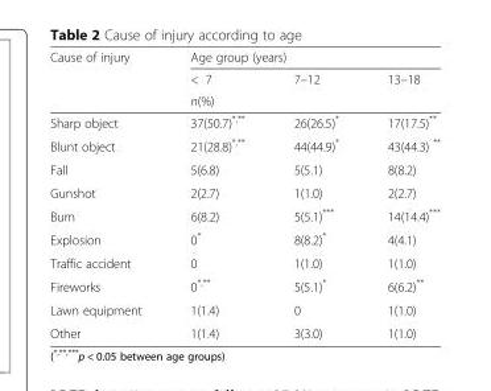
<table><thead><tr><td rowspan="3">Cause of injury</td><td colspan="3">Age group (years)</td></tr><tr><td>&lt; 7</td><td>7–12</td><td>13–18</td></tr><tr><td colspan="3">n(%)</td></tr></thead><tbody><tr><td>Sharp object</td><td>37(50.7)<sup>*,**</sup></td><td>26(26.5)*</td><td>17(17.5)**</td></tr><tr><td>Blunt object</td><td>21(28.8)<sup>*,**</sup></td><td>44(44.9)*</td><td>43(44.3) **</td></tr><tr><td>Fall</td><td>5(6.8)</td><td>5(5.1)</td><td>8(8.2)</td></tr><tr><td>Gunshot</td><td>2(2.7)</td><td>1(1.0)</td><td>2(2.7)</td></tr><tr><td>Burn</td><td>6(8.2)</td><td>5(5.1)***</td><td>14(14.4)***</td></tr><tr><td>Explosion</td><td>0*</td><td>8(8.2)*</td><td>4(4.1)</td></tr><tr><td>Traffic accident</td><td>0</td><td>1(1.0)</td><td>1(1.0)</td></tr><tr><td>Fireworks</td><td>0<sup>*,**</sup></td><td>5(5.1)*</td><td>6(6.2)**</td></tr><tr><td>Lawn equipment</td><td>1(1.4)</td><td>0</td><td>1(1.0)</td></tr><tr><td>Other</td><td>1(1.4)</td><td>3(3.0)</td><td>1(1.0)</td></tr></tbody></table>